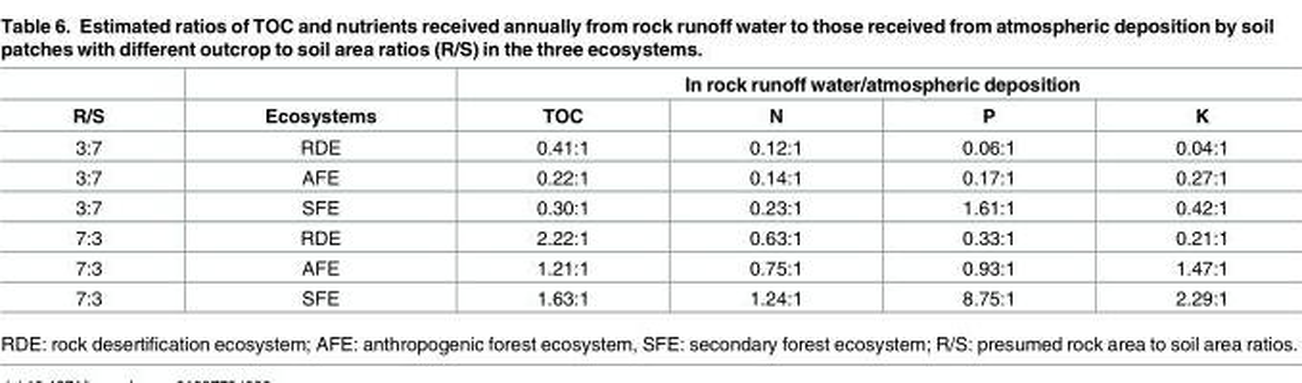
<table><thead><tr><td rowspan="2">R/S</td><td rowspan="2">Ecosystems</td><td colspan="4">In rock runoff water/atmospheric deposition</td></tr><tr><td>TOC</td><td>N</td><td>P</td><td>K</td></tr></thead><tbody><tr><td>3:7</td><td>RDE</td><td>0.41:1</td><td>0.12:1</td><td>0.06:1</td><td>0.04:1</td></tr><tr><td>3:7</td><td>AFE</td><td>0.22:1</td><td>0.14:1</td><td>0.17:1</td><td>0.27:1</td></tr><tr><td>3:7</td><td>SFE</td><td>0.30:1</td><td>0.23:1</td><td>1.61:1</td><td>0.42:1</td></tr><tr><td>7:3</td><td>RDE</td><td>2.22:1</td><td>0.63:1</td><td>0.33:1</td><td>0.21:1</td></tr><tr><td>7:3</td><td>AFE</td><td>1.21:1</td><td>0.75:1</td><td>0.93:1</td><td>1.47:1</td></tr><tr><td>7:3</td><td>SFE</td><td>1.63:1</td><td>1.24:1</td><td>8.75:1</td><td>2.29:1</td></tr></tbody></table>